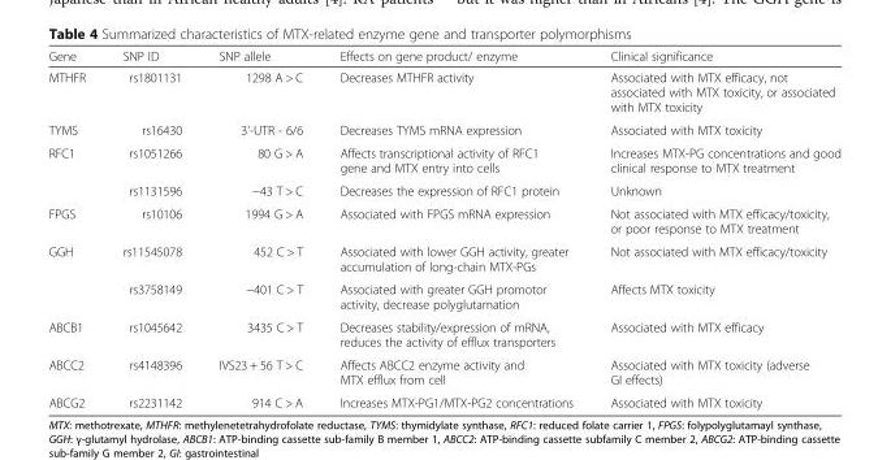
<table><thead><tr><td>Gene</td><td>SNP ID</td><td>SNP allele</td><td>Effects on gene product/ enzyme</td><td>Clinical significance</td></tr></thead><tbody><tr><td>MTHFR</td><td>rs1801131</td><td>1298 A &gt; C</td><td>Decreases MTHFR activity</td><td>Associated with MTX efficacy, not associated with MTX toxicity, or associated with MTX toxicity</td></tr><tr><td>TYMS</td><td>rs16430</td><td>3&#x27;-UTR - 6/6</td><td>Decreases TYMS mRNA expression</td><td>Associated with MTX toxicity</td></tr><tr><td rowspan="2">RFC1</td><td>rs1051266</td><td>80 G &gt; A</td><td>Affects transcriptional activity of RFC1 gene and MTX entry into cells</td><td>Increases MTX-PG concentrations and good clinical response to MTX treatment</td></tr><tr><td>rs1131596</td><td>−43 T &gt; C</td><td>Decreases the expression of RFC1 protein</td><td>Unknown</td></tr><tr><td>FPGS</td><td>rs10106</td><td>1994 G &gt; A</td><td>Associated with FPGS mRNA expression</td><td>Not associated with MTX efficacy/toxicity, or poor response to MTX treatment</td></tr><tr><td rowspan="2">GGH</td><td>rs11545078</td><td>452 C &gt; T</td><td>Associated with lower GGH activity, greater accumulation of long-chain MTX-PGs</td><td>Not associated with MTX efficacy/toxicity</td></tr><tr><td>rs3758149</td><td>−401 C &gt; T</td><td>Associated with greater GGH promotor activity, decrease polyglutamation</td><td>Affects MTX toxicity</td></tr><tr><td>ABCB1</td><td>rs1045642</td><td>3435 C &gt; T</td><td>Decreases stability/expression of mRNA, reduces the activity of efflux transporters</td><td>Associated with MTX efficacy</td></tr><tr><td>ABCC2</td><td>rs4148396</td><td>IVS23 + 56 T &gt; C</td><td>Affects ABCC2 enzyme activity and MTX efflux from cell</td><td>Associated with MTX toxicity (adverse GI effects)</td></tr><tr><td>ABCG2</td><td>rs2231142</td><td>914 C &gt; A</td><td>Increases MTX-PG1/MTX-PG2 concentrations</td><td>Associated with MTX toxicity</td></tr></tbody></table>